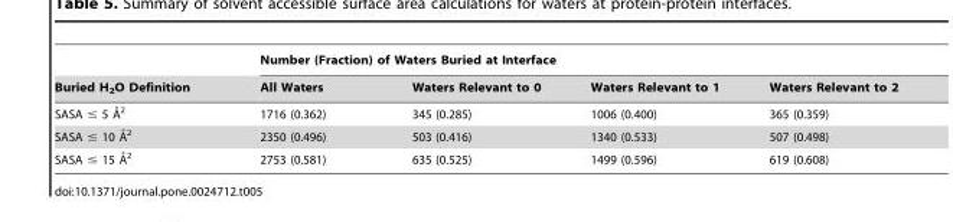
<table><thead><tr><td rowspan="2">Buried H<sub>2</sub>O Definition</td><td colspan="4">Number (Fraction) of Waters Buried at Interface</td></tr><tr><td>All Waters</td><td>Waters Relevant to 0</td><td>Waters Relevant to 1</td><td>Waters Relevant to 2</td></tr></thead><tbody><tr><td>SASA # 5 A˚2</td><td>1716 (0.362)</td><td>345 (0.285)</td><td>1006 (0.400)</td><td>365 (0.359)</td></tr><tr><td>SASA # 10 A˚2</td><td>2350 (0.496)</td><td>503 (0.416)</td><td>1340 (0.533)</td><td>507 (0.498)</td></tr><tr><td>SASA # 15 A˚2</td><td>2753 (0.581)</td><td>635 (0.525)</td><td>1499 (0.596)</td><td>619 (0.608)</td></tr></tbody></table>